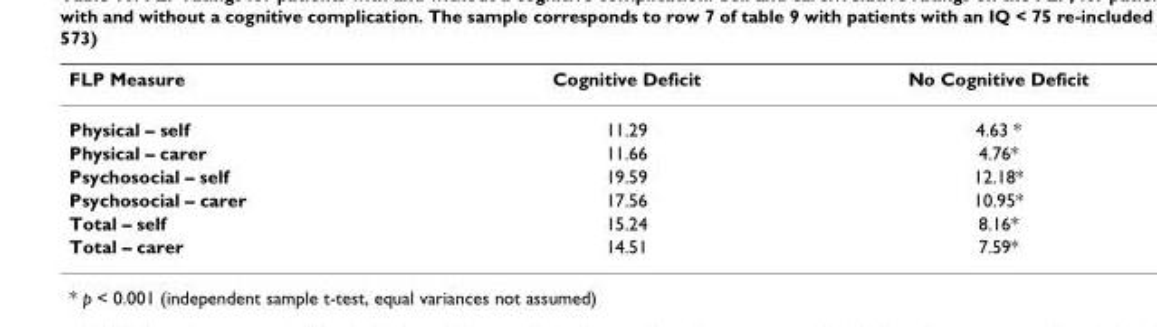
<table><thead><tr><td>FLP Measure</td><td>Cognitive Deficit</td><td>No Cognitive Deficit</td></tr></thead><tbody><tr><td>Physical – self</td><td>11.29</td><td>4.63 *</td></tr><tr><td>Physical – carer</td><td>11.66</td><td>4.76*</td></tr><tr><td>Psychosocial – self</td><td>19.59</td><td>12.18*</td></tr><tr><td>Psychosocial – carer</td><td>17.56</td><td>10.95*</td></tr><tr><td>Total – self</td><td>15.24</td><td>8.16*</td></tr><tr><td>Total – carer</td><td>14.51</td><td>7.59*</td></tr></tbody></table>